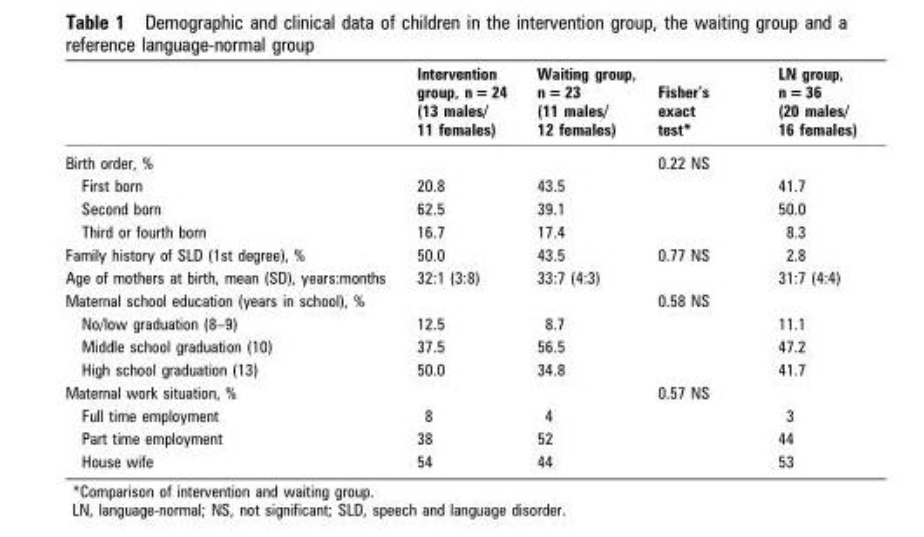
<table><thead><tr><td></td><td>Intervention group, n = 24 (13 males/ 11 females)</td><td>Waiting group, n = 23 (11 males/ 12 females)</td><td>Fisher’s exact test*</td><td>LN group, n = 36 (20 males/ 16 females)</td></tr></thead><tbody><tr><td>Birth order, %</td><td></td><td></td><td>0.22 NS</td><td></td></tr><tr><td>First born</td><td>20.8</td><td>43.5</td><td></td><td>41.7</td></tr><tr><td>Second born</td><td>62.5</td><td>39.1</td><td></td><td>50.0</td></tr><tr><td>Third or fourth born</td><td>16.7</td><td>17.4</td><td></td><td>8.3</td></tr><tr><td>Family history of SLD (1st degree), %</td><td>50.0</td><td>43.5</td><td>0.77 NS</td><td>2.8</td></tr><tr><td>Age of mothers at birth, mean (SD), years:months</td><td>32:1 (3:8)</td><td>33:7 (4:3)</td><td></td><td>31:7 (4:4)</td></tr><tr><td>Maternal school education (years in school), %</td><td></td><td></td><td>0.58 NS</td><td></td></tr><tr><td>No/low graduation (8–9)</td><td>12.5</td><td>8.7</td><td></td><td>11.1</td></tr><tr><td>Middle school graduation (10)</td><td>37.5</td><td>56.5</td><td></td><td>47.2</td></tr><tr><td>High school graduation (13)</td><td>50.0</td><td>34.8</td><td></td><td>41.7</td></tr><tr><td>Maternal work situation, %</td><td></td><td></td><td>0.57 NS</td><td></td></tr><tr><td>Full time employment</td><td>8</td><td>4</td><td></td><td>3</td></tr><tr><td>Part time employment</td><td>38</td><td>52</td><td></td><td>44</td></tr><tr><td>House wife</td><td>54</td><td>44</td><td></td><td>53</td></tr></tbody></table>